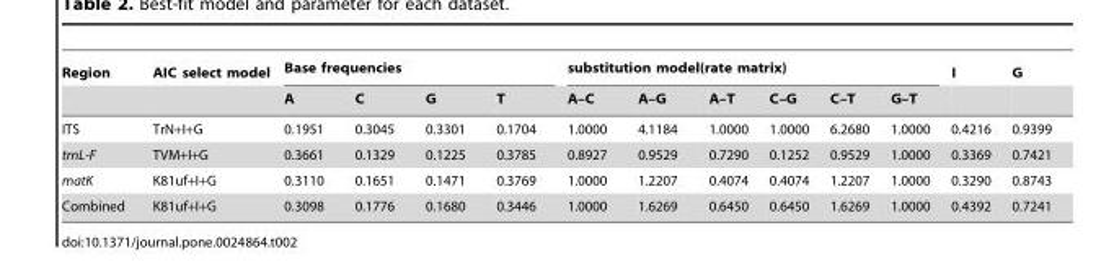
<table><thead><tr><td rowspan="2">Region</td><td rowspan="2">AIC select model</td><td colspan="4">Base frequencies</td><td colspan="6">substitution model(rate matrix)</td><td rowspan="2">I</td><td rowspan="2">G</td></tr><tr><td>A</td><td>C</td><td>G</td><td>T</td><td>A–C</td><td>A–G</td><td>A–T</td><td>C–G</td><td>C–T</td><td>G–T</td></tr></thead><tbody><tr><td>ITS</td><td>TrN+I+G</td><td>0.1951</td><td>0.3045</td><td>0.3301</td><td>0.1704</td><td>1.0000</td><td>4.1184</td><td>1.0000</td><td>1.0000</td><td>6.2680</td><td>1.0000</td><td>0.4216</td><td>0.9399</td></tr><tr><td>trnL-F</td><td>TVM+I+G</td><td>0.3661</td><td>0.1329</td><td>0.1225</td><td>0.3785</td><td>0.8927</td><td>0.9529</td><td>0.7290</td><td>0.1252</td><td>0.9529</td><td>1.0000</td><td>0.3369</td><td>0.7421</td></tr><tr><td>matK</td><td>K81uf+I+G</td><td>0.3110</td><td>0.1651</td><td>0.1471</td><td>0.3769</td><td>1.0000</td><td>1.2207</td><td>0.4074</td><td>0.4074</td><td>1.2207</td><td>1.0000</td><td>0.3290</td><td>0.8743</td></tr><tr><td>Combined</td><td>K81uf+I+G</td><td>0.3098</td><td>0.1776</td><td>0.1680</td><td>0.3446</td><td>1.0000</td><td>1.6269</td><td>0.6450</td><td>0.6450</td><td>1.6269</td><td>1.0000</td><td>0.4392</td><td>0.7241</td></tr></tbody></table>